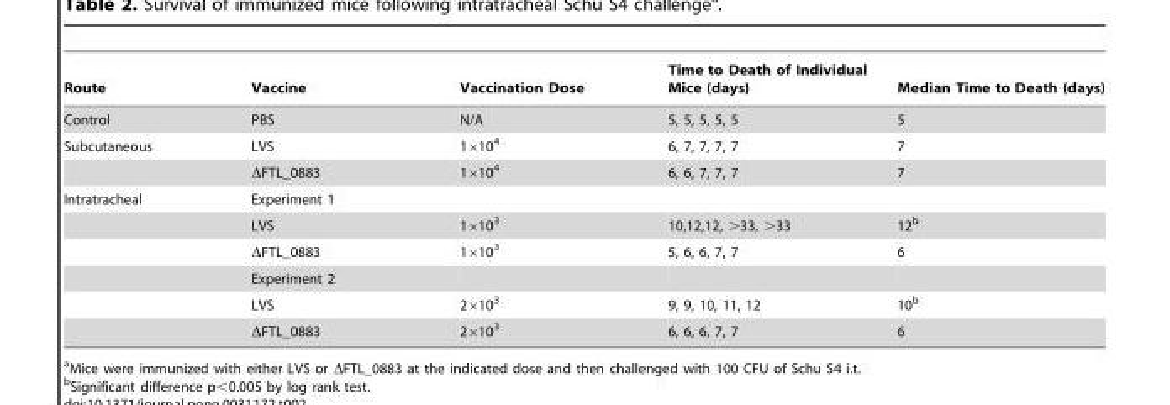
<table><thead><tr><td>Route</td><td>Vaccine</td><td>Vaccination Dose</td><td>Time to Death of Individual Mice (days)</td><td>Median Time to Death (days)</td></tr></thead><tbody><tr><td>Control</td><td>PBS</td><td>N/A</td><td>5, 5, 5, 5, 5</td><td>5</td></tr><tr><td rowspan="2">Subcutaneous</td><td>LVS</td><td>1×10<sup>4</sup></td><td>6, 7, 7, 7, 7</td><td>7</td></tr><tr><td>ΔFTL_0883</td><td>1×10<sup>4</sup></td><td>6, 6, 7, 7, 7</td><td>7</td></tr><tr><td rowspan="6">Intratracheal</td><td>Experiment 1</td><td></td><td></td><td></td></tr><tr><td>LVS</td><td>1×10<sup>3</sup></td><td>10,12,12, &gt;33, &gt;33</td><td>12<sup>b</sup></td></tr><tr><td>ΔFTL_0883</td><td>1×10<sup>3</sup></td><td>5, 6, 6, 7, 7</td><td>6</td></tr><tr><td>Experiment 2</td><td></td><td></td><td></td></tr><tr><td>LVS</td><td>2×10<sup>3</sup></td><td>9, 9, 10, 11, 12</td><td>10<sup>b</sup></td></tr><tr><td>ΔFTL_0883</td><td>2×10<sup>3</sup></td><td>6, 6, 6, 7, 7</td><td>6</td></tr></tbody></table>